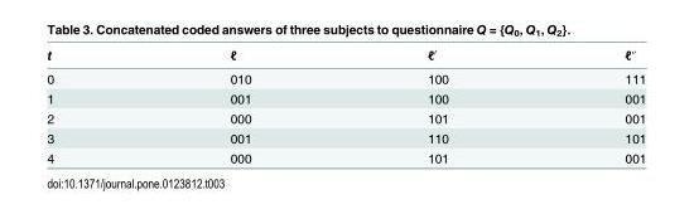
<table><thead><tr><td>t</td><td>ℓ</td><td>ℓ′</td><td>ℓ″</td></tr></thead><tbody><tr><td>0</td><td>010</td><td>100</td><td>111</td></tr><tr><td>1</td><td>001</td><td>100</td><td>001</td></tr><tr><td>2</td><td>000</td><td>101</td><td>001</td></tr><tr><td>3</td><td>001</td><td>110</td><td>101</td></tr><tr><td>4</td><td>000</td><td>101</td><td>001</td></tr></tbody></table>